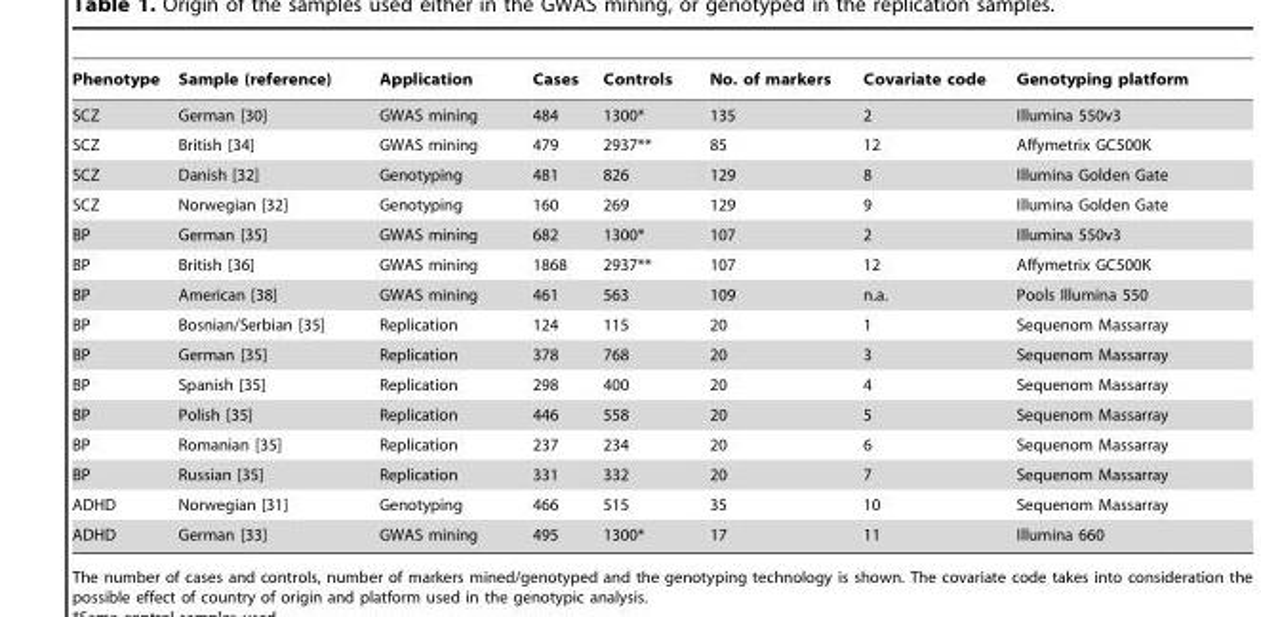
<table><thead><tr><td>Phenotype</td><td>Sample (reference)</td><td>Application</td><td>Cases</td><td>Controls</td><td>No. of markers</td><td>Covariate code</td><td>Genotyping platform</td></tr></thead><tbody><tr><td>SCZ</td><td>German [30]</td><td>GWAS mining</td><td>484</td><td>1300*</td><td>135</td><td>2</td><td>Illumina 550v3</td></tr><tr><td>SCZ</td><td>British [34]</td><td>GWAS mining</td><td>479</td><td>2937**</td><td>85</td><td>12</td><td>Affymetrix GC500K</td></tr><tr><td>SCZ</td><td>Danish [32]</td><td>Genotyping</td><td>481</td><td>826</td><td>129</td><td>8</td><td>Illumina Golden Gate</td></tr><tr><td>SCZ</td><td>Norwegian [32]</td><td>Genotyping</td><td>160</td><td>269</td><td>129</td><td>9</td><td>Illumina Golden Gate</td></tr><tr><td>BP</td><td>German [35]</td><td>GWAS mining</td><td>682</td><td>1300*</td><td>107</td><td>2</td><td>Illumina 550v3</td></tr><tr><td>BP</td><td>British [36]</td><td>GWAS mining</td><td>1868</td><td>2937**</td><td>107</td><td>12</td><td>Affymetrix GC500K</td></tr><tr><td>BP</td><td>American [38]</td><td>GWAS mining</td><td>461</td><td>563</td><td>109</td><td>n.a.</td><td>Pools Illumina 550</td></tr><tr><td>BP</td><td>Bosnian/Serbian [35]</td><td>Replication</td><td>124</td><td>115</td><td>20</td><td>1</td><td>Sequenom Massarray</td></tr><tr><td>BP</td><td>German [35]</td><td>Replication</td><td>378</td><td>768</td><td>20</td><td>3</td><td>Sequenom Massarray</td></tr><tr><td>BP</td><td>Spanish [35]</td><td>Replication</td><td>298</td><td>400</td><td>20</td><td>4</td><td>Sequenom Massarray</td></tr><tr><td>BP</td><td>Polish [35]</td><td>Replication</td><td>446</td><td>558</td><td>20</td><td>5</td><td>Sequenom Massarray</td></tr><tr><td>BP</td><td>Romanian [35]</td><td>Replication</td><td>237</td><td>234</td><td>20</td><td>6</td><td>Sequenom Massarray</td></tr><tr><td>BP</td><td>Russian [35]</td><td>Replication</td><td>331</td><td>332</td><td>20</td><td>7</td><td>Sequenom Massarray</td></tr><tr><td>ADHD</td><td>Norwegian [31]</td><td>Genotyping</td><td>466</td><td>515</td><td>35</td><td>10</td><td>Sequenom Massarray</td></tr><tr><td>ADHD</td><td>German [33]</td><td>GWAS mining</td><td>495</td><td>1300*</td><td>17</td><td>11</td><td>Illumina 660</td></tr></tbody></table>